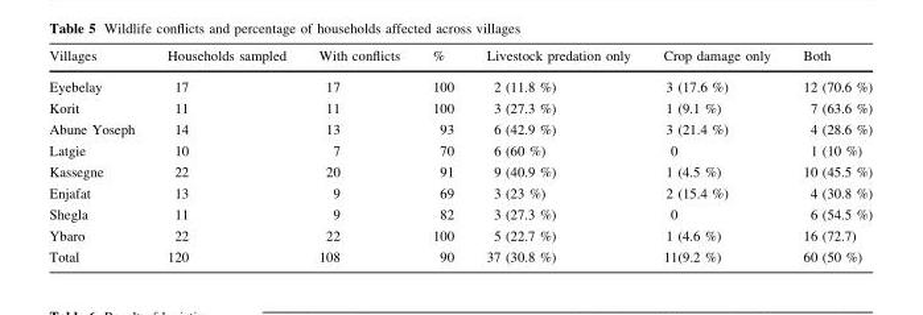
<table><thead><tr><td>Villages</td><td>Households sampled</td><td>With conflicts</td><td>%</td><td>Livestock predation only</td><td>Crop damage only</td><td>Both</td></tr></thead><tbody><tr><td>Eyebelay</td><td>17</td><td>17</td><td>100</td><td>2 (11.8 %)</td><td>3 (17.6 %)</td><td>12 (70.6 %)</td></tr><tr><td>Korit</td><td>11</td><td>11</td><td>100</td><td>3 (27.3 %)</td><td>1 (9.1 %)</td><td>7 (63.6 %)</td></tr><tr><td>Abune Yoseph</td><td>14</td><td>13</td><td>93</td><td>6 (42.9 %)</td><td>3 (21.4 %)</td><td>4 (28.6 %)</td></tr><tr><td>Latgie</td><td>10</td><td>7</td><td>70</td><td>6 (60 %)</td><td>0</td><td>1 (10 %)</td></tr><tr><td>Kassegne</td><td>22</td><td>20</td><td>91</td><td>9 (40.9 %)</td><td>1 (4.5 %)</td><td>10 (45.5 %)</td></tr><tr><td>Enjafat</td><td>13</td><td>9</td><td>69</td><td>3 (23 %)</td><td>2 (15.4 %)</td><td>4 (30.8 %)</td></tr><tr><td>Shegla</td><td>11</td><td>9</td><td>82</td><td>3 (27.3 %)</td><td>0</td><td>6 (54.5 %)</td></tr><tr><td>Ybaro</td><td>22</td><td>22</td><td>100</td><td>5 (22.7 %)</td><td>1 (4.6 %)</td><td>16 (72.7)</td></tr><tr><td>Total</td><td>120</td><td>108</td><td>90</td><td>37 (30.8 %)</td><td>11(9.2 %)</td><td>60 (50 %)</td></tr></tbody></table>